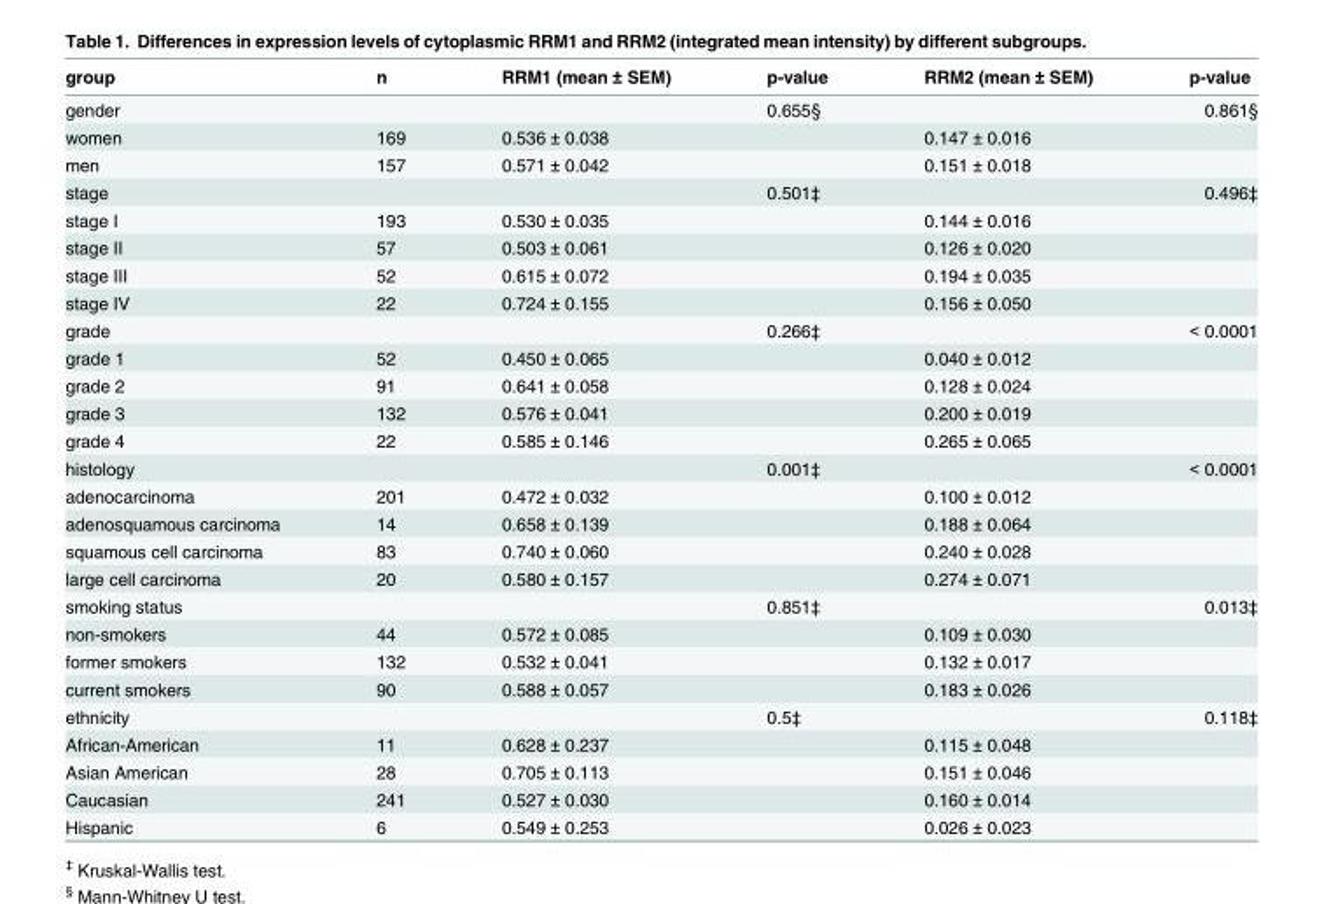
<table><thead><tr><td>group</td><td>n</td><td>RRM1 (mean ± SEM)</td><td>p-value</td><td>RRM2 (mean ± SEM)</td><td>p-value</td></tr></thead><tbody><tr><td>gender</td><td></td><td></td><td>0.655§</td><td></td><td>0.861§</td></tr><tr><td>women</td><td>169</td><td>0.536 ± 0.038</td><td></td><td>0.147 ± 0.016</td><td></td></tr><tr><td>men</td><td>157</td><td>0.571 ± 0.042</td><td></td><td>0.151 ± 0.018</td><td></td></tr><tr><td>stage</td><td></td><td></td><td>0.501‡</td><td></td><td>0.496‡</td></tr><tr><td>stage I</td><td>193</td><td>0.530 ± 0.035</td><td></td><td>0.144 ± 0.016</td><td></td></tr><tr><td>stage II</td><td>57</td><td>0.503 ± 0.061</td><td></td><td>0.126 ± 0.020</td><td></td></tr><tr><td>stage III</td><td>52</td><td>0.615 ± 0.072</td><td></td><td>0.194 ± 0.035</td><td></td></tr><tr><td>stage IV</td><td>22</td><td>0.724 ± 0.155</td><td></td><td>0.156 ± 0.050</td><td></td></tr><tr><td>grade</td><td></td><td></td><td>0.266‡</td><td></td><td>&lt; 0.0001</td></tr><tr><td>grade 1</td><td>52</td><td>0.450 ± 0.065</td><td></td><td>0.040 ± 0.012</td><td></td></tr><tr><td>grade 2</td><td>91</td><td>0.641 ± 0.058</td><td></td><td>0.128 ± 0.024</td><td></td></tr><tr><td>grade 3</td><td>132</td><td>0.576 ± 0.041</td><td></td><td>0.200 ± 0.019</td><td></td></tr><tr><td>grade 4</td><td>22</td><td>0.585 ± 0.146</td><td></td><td>0.265 ± 0.065</td><td></td></tr><tr><td>histology</td><td></td><td></td><td>0.001‡</td><td></td><td>&lt; 0.0001</td></tr><tr><td>adenocarcinoma</td><td>201</td><td>0.472 ± 0.032</td><td></td><td>0.100 ± 0.012</td><td></td></tr><tr><td>adenosquamous carcinoma</td><td>14</td><td>0.658 ± 0.139</td><td></td><td>0.188 ± 0.064</td><td></td></tr><tr><td>squamous cell carcinoma</td><td>83</td><td>0.740 ± 0.060</td><td></td><td>0.240 ± 0.028</td><td></td></tr><tr><td>large cell carcinoma</td><td>20</td><td>0.580 ± 0.157</td><td></td><td>0.274 ± 0.071</td><td></td></tr><tr><td>smoking status</td><td></td><td></td><td>0.851‡</td><td></td><td>0.013‡</td></tr><tr><td>non-smokers</td><td>44</td><td>0.572 ± 0.085</td><td></td><td>0.109 ± 0.030</td><td></td></tr><tr><td>former smokers</td><td>132</td><td>0.532 ± 0.041</td><td></td><td>0.132 ± 0.017</td><td></td></tr><tr><td>current smokers</td><td>90</td><td>0.588 ± 0.057</td><td></td><td>0.183 ± 0.026</td><td></td></tr><tr><td>ethnicity</td><td></td><td></td><td>0.5‡</td><td></td><td>0.118‡</td></tr><tr><td>African-American</td><td>11</td><td>0.628 ± 0.237</td><td></td><td>0.115 ± 0.048</td><td></td></tr><tr><td>Asian American</td><td>28</td><td>0.705 ± 0.113</td><td></td><td>0.151 ± 0.046</td><td></td></tr><tr><td>Caucasian</td><td>241</td><td>0.527 ± 0.030</td><td></td><td>0.160 ± 0.014</td><td></td></tr><tr><td>Hispanic</td><td>6</td><td>0.549 ± 0.253</td><td></td><td>0.026 ± 0.023</td><td></td></tr></tbody></table>